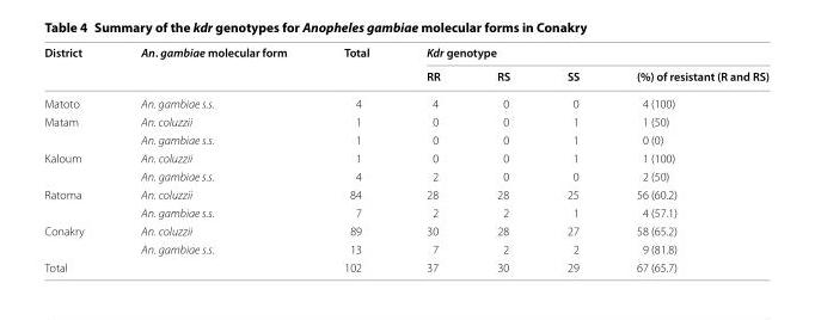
<table><thead><tr><td rowspan="2">District</td><td rowspan="2">An. gambiae molecular form</td><td rowspan="2">Total</td><td colspan="4">Kdr genotype</td></tr><tr><td>RR</td><td>RS</td><td>SS</td><td>(%) of resistant (R and RS)</td></tr></thead><tbody><tr><td>Matoto</td><td>An. gambiae s.s.</td><td>4</td><td>4</td><td>0</td><td>0</td><td>4 (100)</td></tr><tr><td rowspan="2">Matam</td><td>An. coluzzii</td><td>1</td><td>0</td><td>0</td><td>1</td><td>1 (50)</td></tr><tr><td>An. gambiae s.s.</td><td>1</td><td>0</td><td>0</td><td>1</td><td>0 (0)</td></tr><tr><td rowspan="2">Kaloum</td><td>An. coluzzii</td><td>1</td><td>0</td><td>0</td><td>1</td><td>1 (100)</td></tr><tr><td>An. gambiae s.s.</td><td>4</td><td>2</td><td>0</td><td>0</td><td>2 (50)</td></tr><tr><td rowspan="2">Ratoma</td><td>An. coluzzii</td><td>84</td><td>28</td><td>28</td><td>25</td><td>56 (60.2)</td></tr><tr><td>An. gambiae s.s.</td><td>7</td><td>2</td><td>2</td><td>1</td><td>4 (57.1)</td></tr><tr><td rowspan="2">Conakry</td><td>An. coluzzii</td><td>89</td><td>30</td><td>28</td><td>27</td><td>58 (65.2)</td></tr><tr><td>An. gambiae s.s.</td><td>13</td><td>7</td><td>2</td><td>2</td><td>9 (81.8)</td></tr><tr><td colspan="2">Total</td><td>102</td><td>37</td><td>30</td><td>29</td><td>67 (65.7)</td></tr></tbody></table>